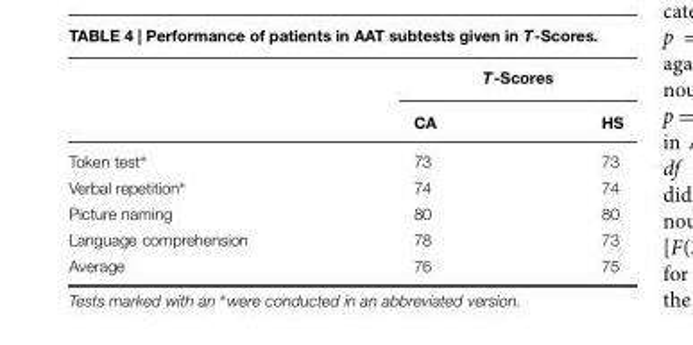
<table><thead><tr><td rowspan="2"></td><td colspan="2">T-Scores</td></tr><tr><td>CA</td><td>HS</td></tr></thead><tbody><tr><td>Token test∗</td><td>73</td><td>73</td></tr><tr><td>Verbal repetition∗</td><td>74</td><td>74</td></tr><tr><td>Picture naming</td><td>80</td><td>80</td></tr><tr><td>Language comprehension</td><td>78</td><td>73</td></tr><tr><td>Average</td><td>76</td><td>75</td></tr></tbody></table>